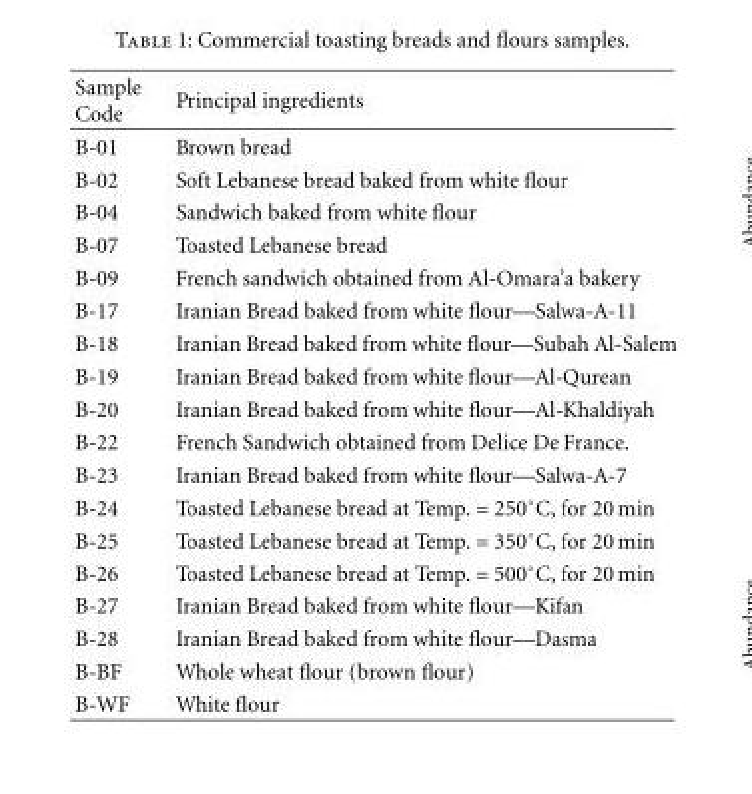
<table><thead><tr><td>Sample Code</td><td>Principal ingredients</td></tr></thead><tbody><tr><td>B-01</td><td>Brown bread</td></tr><tr><td>B-02</td><td>Soft Lebanese bread baked from white flour</td></tr><tr><td>B-04</td><td>Sandwich baked from white flour</td></tr><tr><td>B-07</td><td>Toasted Lebanese bread</td></tr><tr><td>B-09</td><td>French sandwich obtained from Al-Omara’a bakery</td></tr><tr><td>B-17</td><td>Iranian Bread baked from white flour—Salwa-A-11</td></tr><tr><td>B-18</td><td>Iranian Bread baked from white flour—Subah Al-Salem</td></tr><tr><td>B-19</td><td>Iranian Bread baked from white flour—Al-Qurean</td></tr><tr><td>B-20</td><td>Iranian Bread baked from white flour—Al-Khaldiyah</td></tr><tr><td>B-22</td><td>French Sandwich obtained from Delice De France.</td></tr><tr><td>B-23</td><td>Iranian Bread baked from white flour—Salwa-A-7</td></tr><tr><td>B-24</td><td>Toasted Lebanese bread at Temp. = 250◦C, for 20 min</td></tr><tr><td>B-25</td><td>Toasted Lebanese bread at Temp. = 350◦C, for 20 min</td></tr><tr><td>B-26</td><td>Toasted Lebanese bread at Temp. = 500◦C, for 20 min</td></tr><tr><td>B-27</td><td>Iranian Bread baked from white flour—Kifan</td></tr><tr><td>B-28</td><td>Iranian Bread baked from white flour—Dasma</td></tr><tr><td>B-BF</td><td>Whole wheat flour (brown flour)</td></tr><tr><td>B-WF</td><td>White flour</td></tr></tbody></table>